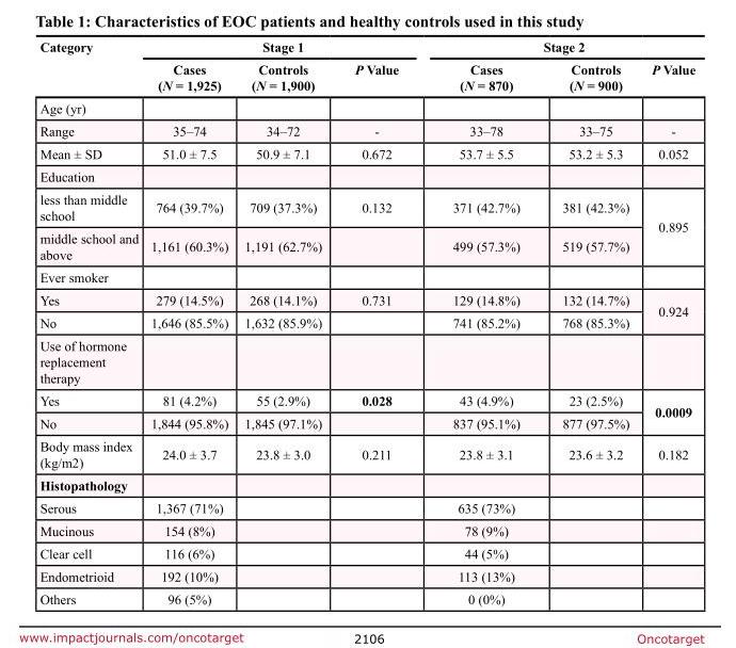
<table><thead><tr><td rowspan="2">Category</td><td colspan="3">Stage 1</td><td colspan="3">Stage 2</td></tr><tr><td>Cases (N = 1,925)</td><td>Controls (N = 1,900)</td><td>P Value</td><td>Cases (N = 870)</td><td>Controls (N = 900)</td><td>P Value</td></tr></thead><tbody><tr><td colspan="7">Age (yr)</td></tr><tr><td>Range</td><td>35–74</td><td>34–72</td><td>-</td><td>33–78</td><td>33–75</td><td>-</td></tr><tr><td>Mean ± SD</td><td>51.0 ± 7.5</td><td>50.9 ± 7.1</td><td>0.672</td><td>53.7 ± 5.5</td><td>53.2 ± 5.3</td><td>0.052</td></tr><tr><td colspan="7">Education</td></tr><tr><td>less than middle school</td><td>764 (39.7%)</td><td>709 (37.3%)</td><td>0.132</td><td>371 (42.7%)</td><td>381 (42.3%)</td><td rowspan="2">0.895</td></tr><tr><td>middle school and above</td><td>1,161 (60.3%)</td><td>1,191 (62.7%)</td><td></td><td>499 (57.3%)</td><td>519 (57.7%)</td></tr><tr><td colspan="7">Ever smoker</td></tr><tr><td>Yes</td><td>279 (14.5%)</td><td>268 (14.1%)</td><td>0.731</td><td>129 (14.8%)</td><td>132 (14.7%)</td><td rowspan="2">0.924</td></tr><tr><td>No</td><td>1,646 (85.5%)</td><td>1,632 (85.9%)</td><td></td><td>741 (85.2%)</td><td>768 (85.3%)</td></tr><tr><td colspan="7">Use of hormone replacement therapy</td></tr><tr><td>Yes</td><td>81 (4.2%)</td><td>55 (2.9%)</td><td>0.028</td><td>43 (4.9%)</td><td>23 (2.5%)</td><td rowspan="2">0.0009</td></tr><tr><td>No</td><td>1,844 (95.8%)</td><td>1,845 (97.1%)</td><td></td><td>837 (95.1%)</td><td>877 (97.5%)</td></tr><tr><td>Body mass index (kg/m2)</td><td>24.0 ± 3.7</td><td>23.8 ± 3.0</td><td>0.211</td><td>23.8 ± 3.1</td><td>23.6 ± 3.2</td><td>0.182</td></tr><tr><td colspan="7">Histopathology</td></tr><tr><td>Serous</td><td>1,367 (71%)</td><td></td><td></td><td>635 (73%)</td><td></td><td></td></tr><tr><td>Mucinous</td><td>154 (8%)</td><td></td><td></td><td>78 (9%)</td><td></td><td></td></tr><tr><td>Clear cell</td><td>116 (6%)</td><td></td><td></td><td>44 (5%)</td><td></td><td></td></tr><tr><td>Endometrioid</td><td>192 (10%)</td><td></td><td></td><td>113 (13%)</td><td></td><td></td></tr><tr><td>Others</td><td>96 (5%)</td><td></td><td></td><td>0 (0%)</td><td></td><td></td></tr></tbody></table>